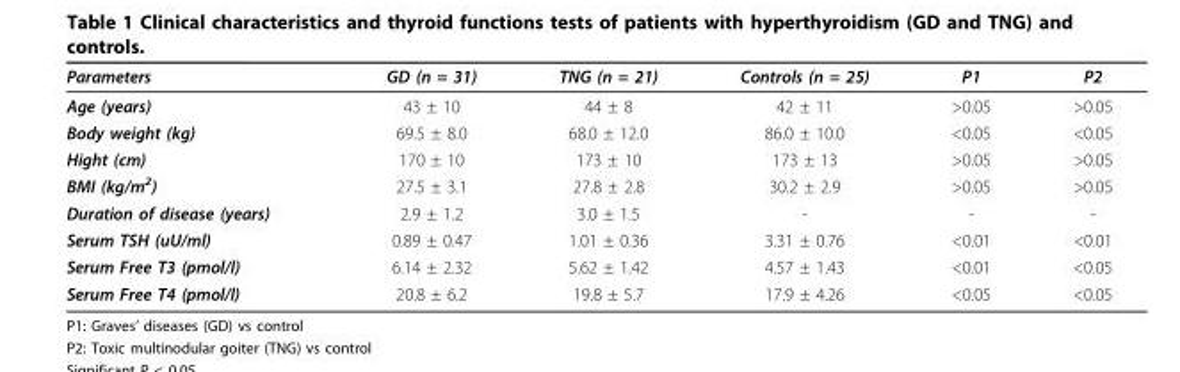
<table><thead><tr><td>Parameters</td><td>GD (n = 31)</td><td>TNG (n = 21)</td><td>Controls (n = 25)</td><td>P1</td><td>P2</td></tr></thead><tbody><tr><td>Age (years)</td><td>43 ± 10</td><td>44 ± 8</td><td>42 ± 11</td><td>&gt;0.05</td><td>&gt;0.05</td></tr><tr><td>Body weight (kg)</td><td>69.5 ± 8.0</td><td>68.0 ± 12.0</td><td>86.0 ± 10.0</td><td>&lt;0.05</td><td>&lt;0.05</td></tr><tr><td>Hight (cm)</td><td>170 ± 10</td><td>173 ± 10</td><td>173 ± 13</td><td>&gt;0.05</td><td>&gt;0.05</td></tr><tr><td>BMI (kg/m<sup>2</sup>)</td><td>27.5 ± 3.1</td><td>27.8 ± 2.8</td><td>30.2 ± 2.9</td><td>&gt;0.05</td><td>&gt;0.05</td></tr><tr><td>Duration of disease (years)</td><td>2.9 ± 1.2</td><td>3.0 ± 1.5</td><td>-</td><td>-</td><td>-</td></tr><tr><td>Serum TSH (uU/ml)</td><td>0.89 ± 0.47</td><td>1.01 ± 0.36</td><td>3.31 ± 0.76</td><td>&lt;0.01</td><td>&lt;0.01</td></tr><tr><td>Serum Free T3 (pmol/l)</td><td>6.14 ± 2.32</td><td>5.62 ± 1.42</td><td>4.57 ± 1.43</td><td>&lt;0.01</td><td>&lt;0.05</td></tr><tr><td>Serum Free T4 (pmol/l)</td><td>20.8 ± 6.2</td><td>19.8 ± 5.7</td><td>17.9 ± 4.26</td><td>&lt;0.05</td><td>&lt;0.05</td></tr></tbody></table>